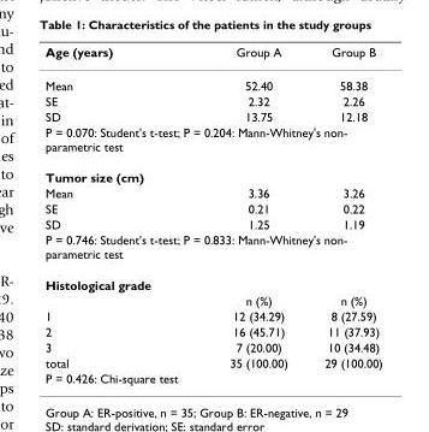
<table><thead><tr><td>Age (years)</td><td>Group A</td><td>Group B</td></tr></thead><tbody><tr><td>Mean</td><td>52.40</td><td>58.38</td></tr><tr><td>SE</td><td>2.32</td><td>2.26</td></tr><tr><td>SD</td><td>13.75</td><td>12.18</td></tr><tr><td colspan="3">P = 0.070: Student&#x27;s t-test; P = 0.204: Mann-Whitney&#x27;s non- parametric test</td></tr><tr><td colspan="3">Tumor size (cm)</td></tr><tr><td>Mean</td><td>3.36</td><td>3.26</td></tr><tr><td>SE</td><td>0.21</td><td>0.22</td></tr><tr><td>SD</td><td>1.25</td><td>1.19</td></tr><tr><td colspan="3">P = 0.746: Student&#x27;s t-test; P = 0.833: Mann-Whitney&#x27;s non- parametric test</td></tr><tr><td colspan="3">Histological grade</td></tr><tr><td></td><td>n (%)</td><td>n (%)</td></tr><tr><td>1</td><td>12 (34.29)</td><td>8 (27.59)</td></tr><tr><td>2</td><td>16 (45.71)</td><td>11 (37.93)</td></tr><tr><td>3</td><td>7 (20.00)</td><td>10 (34.48)</td></tr><tr><td>total</td><td>35 (100.00)</td><td>29 (100.00)</td></tr><tr><td>P = 0.426: Chi-square test</td><td></td><td></td></tr></tbody></table>